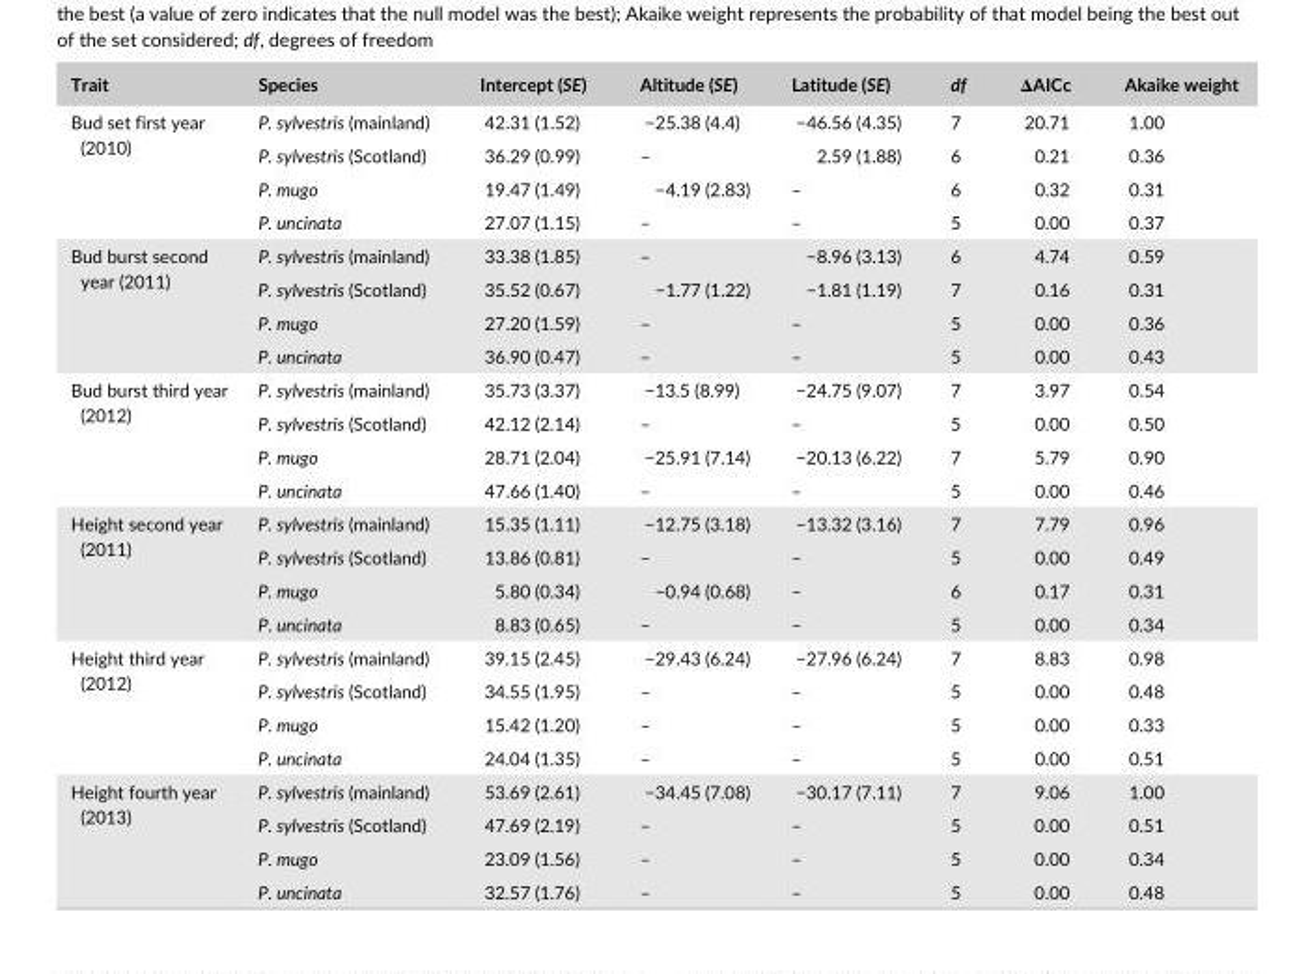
<table><thead><tr><td>Trait</td><td>Species</td><td>Intercept (SE)</td><td>Altitude (SE)</td><td>Latitude (SE)</td><td>df</td><td>ΔAICc</td><td>Akaike weight</td></tr></thead><tbody><tr><td rowspan="4">Bud set first year (2010)</td><td>P. sylvestris (mainland)</td><td>42.31 (1.52)</td><td>−25.38 (4.4)</td><td>−46.56 (4.35)</td><td>7</td><td>20.71</td><td>1.00</td></tr><tr><td>P. sylvestris (Scotland)</td><td>36.29 (0.99)</td><td>–</td><td>2.59 (1.88)</td><td>6</td><td>0.21</td><td>0.36</td></tr><tr><td>P. mugo</td><td>19.47 (1.49)</td><td>−4.19 (2.83)</td><td>–</td><td>6</td><td>0.32</td><td>0.31</td></tr><tr><td>P. uncinata</td><td>27.07 (1.15)</td><td>–</td><td>–</td><td>5</td><td>0.00</td><td>0.37</td></tr><tr><td rowspan="4">Bud burst second year (2011)</td><td>P. sylvestris (mainland)</td><td>33.38 (1.85)</td><td>–</td><td>−8.96 (3.13)</td><td>6</td><td>4.74</td><td>0.59</td></tr><tr><td>P. sylvestris (Scotland)</td><td>35.52 (0.67)</td><td>−1.77 (1.22)</td><td>−1.81 (1.19)</td><td>7</td><td>0.16</td><td>0.31</td></tr><tr><td>P. mugo</td><td>27.20 (1.59)</td><td>–</td><td>–</td><td>5</td><td>0.00</td><td>0.36</td></tr><tr><td>P. uncinata</td><td>36.90 (0.47)</td><td>–</td><td>–</td><td>5</td><td>0.00</td><td>0.43</td></tr><tr><td rowspan="4">Bud burst third year (2012)</td><td>P. sylvestris (mainland)</td><td>35.73 (3.37)</td><td>−13.5 (8.99)</td><td>−24.75 (9.07)</td><td>7</td><td>3.97</td><td>0.54</td></tr><tr><td>P. sylvestris (Scotland)</td><td>42.12 (2.14)</td><td>–</td><td>–</td><td>5</td><td>0.00</td><td>0.50</td></tr><tr><td>P. mugo</td><td>28.71 (2.04)</td><td>−25.91 (7.14)</td><td>−20.13 (6.22)</td><td>7</td><td>5.79</td><td>0.90</td></tr><tr><td>P. uncinata</td><td>47.66 (1.40)</td><td>–</td><td>–</td><td>5</td><td>0.00</td><td>0.46</td></tr><tr><td rowspan="4">Height second year (2011)</td><td>P. sylvestris (mainland)</td><td>15.35 (1.11)</td><td>−12.75 (3.18)</td><td>−13.32 (3.16)</td><td>7</td><td>7.79</td><td>0.96</td></tr><tr><td>P. sylvestris (Scotland)</td><td>13.86 (0.81)</td><td>–</td><td>–</td><td>5</td><td>0.00</td><td>0.49</td></tr><tr><td>P. mugo</td><td>5.80 (0.34)</td><td>−0.94 (0.68)</td><td>–</td><td>6</td><td>0.17</td><td>0.31</td></tr><tr><td>P. uncinata</td><td>8.83 (0.65)</td><td>–</td><td>–</td><td>5</td><td>0.00</td><td>0.34</td></tr><tr><td rowspan="4">Height third year (2012)</td><td>P. sylvestris (mainland)</td><td>39.15 (2.45)</td><td>−29.43 (6.24)</td><td>−27.96 (6.24)</td><td>7</td><td>8.83</td><td>0.98</td></tr><tr><td>P. sylvestris (Scotland)</td><td>34.55 (1.95)</td><td>–</td><td>–</td><td>5</td><td>0.00</td><td>0.48</td></tr><tr><td>P. mugo</td><td>15.42 (1.20)</td><td>–</td><td>–</td><td>5</td><td>0.00</td><td>0.33</td></tr><tr><td>P. uncinata</td><td>24.04 (1.35)</td><td>–</td><td>–</td><td>5</td><td>0.00</td><td>0.51</td></tr><tr><td rowspan="4">Height fourth year (2013)</td><td>P. sylvestris (mainland)</td><td>53.69 (2.61)</td><td>−34.45 (7.08)</td><td>−30.17 (7.11)</td><td>7</td><td>9.06</td><td>1.00</td></tr><tr><td>P. sylvestris (Scotland)</td><td>47.69 (2.19)</td><td>–</td><td>–</td><td>5</td><td>0.00</td><td>0.51</td></tr><tr><td>P. mugo</td><td>23.09 (1.56)</td><td>–</td><td>–</td><td>5</td><td>0.00</td><td>0.34</td></tr><tr><td>P. uncinata</td><td>32.57 (1.76)</td><td>–</td><td>–</td><td>5</td><td>0.00</td><td>0.48</td></tr></tbody></table>